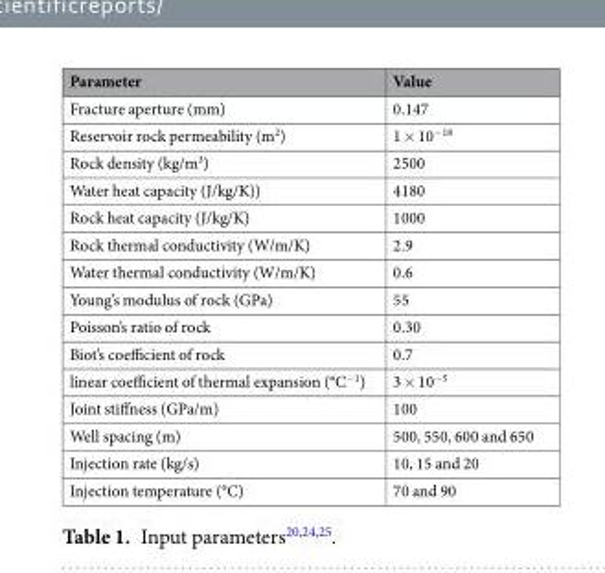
<table><thead><tr><td>Parameter</td><td>Value</td></tr></thead><tbody><tr><td>Fracture aperture (mm)</td><td>0.147</td></tr><tr><td>Reservoir rock permeability (m<sup>2</sup>)</td><td>1 × 10<sup>−18</sup></td></tr><tr><td>Rock density (kg/m<sup>3</sup>)</td><td>2500</td></tr><tr><td>Water heat capacity (J/kg/K))</td><td>4180</td></tr><tr><td>Rock heat capacity (J/kg/K)</td><td>1000</td></tr><tr><td>Rock thermal conductivity (W/m/K)</td><td>2.9</td></tr><tr><td>Water thermal conductivity (W/m/K)</td><td>0.6</td></tr><tr><td>Young’s modulus of rock (GPa)</td><td>55</td></tr><tr><td>Poisson’s ratio of rock</td><td>0.30</td></tr><tr><td>Biot’s coefficient of rock</td><td>0.7</td></tr><tr><td>linear coefficient of thermal expansion (°C<sup>−1</sup>)</td><td>3 × 10<sup>−5</sup></td></tr><tr><td>Joint stiffness (GPa/m)</td><td>100</td></tr><tr><td>Well spacing (m)</td><td>500, 550, 600 and 650</td></tr><tr><td>Injection rate (kg/s)</td><td>10, 15 and 20</td></tr><tr><td>Injection temperature (°C)</td><td>70 and 90</td></tr></tbody></table>